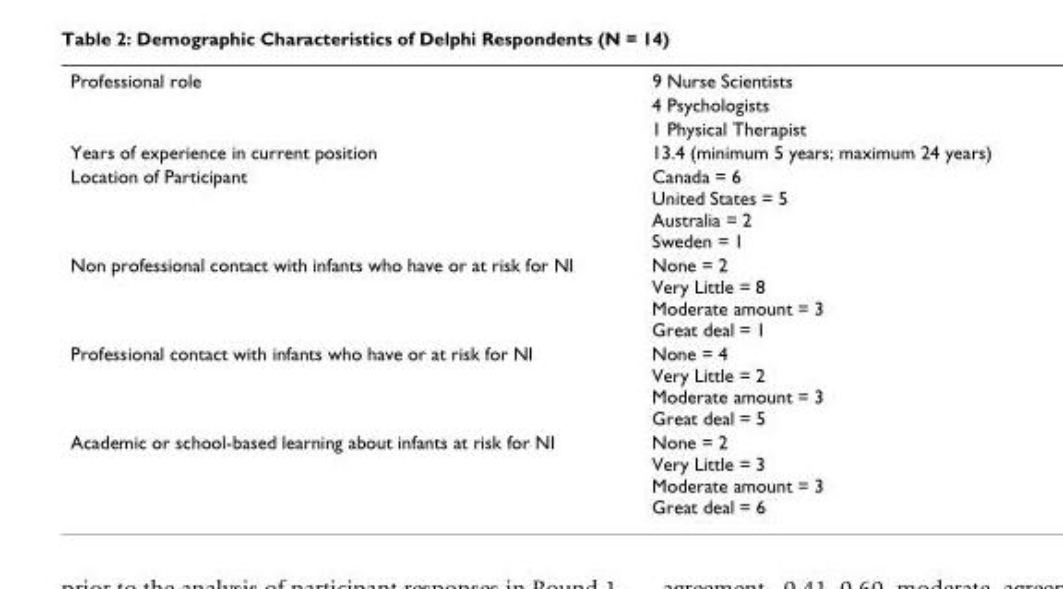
<table><tbody><tr><td rowspan="3">Professional role</td><td>9 Nurse Scientists</td></tr><tr><td>4 Psychologists</td></tr><tr><td>1 Physical Therapist</td></tr><tr><td>Years of experience in current position</td><td>13.4 (minimum 5 years; maximum 24 years)</td></tr><tr><td>Location of Participant</td><td>Canada = 6 United States = 5 Australia = 2 Sweden = 1</td></tr><tr><td>Non professional contact with infants who have or at risk for NI</td><td>None = 2 Very Little = 8 Moderate amount = 3 Great deal = 1</td></tr><tr><td>Professional contact with infants who have or at risk for NI</td><td>None = 4 Very Little = 2 Moderate amount = 3 Great deal = 5</td></tr><tr><td>Academic or school-based learning about infants at risk for NI</td><td>None = 2 Very Little = 3 Moderate amount = 3 Great deal = 6</td></tr></tbody></table>